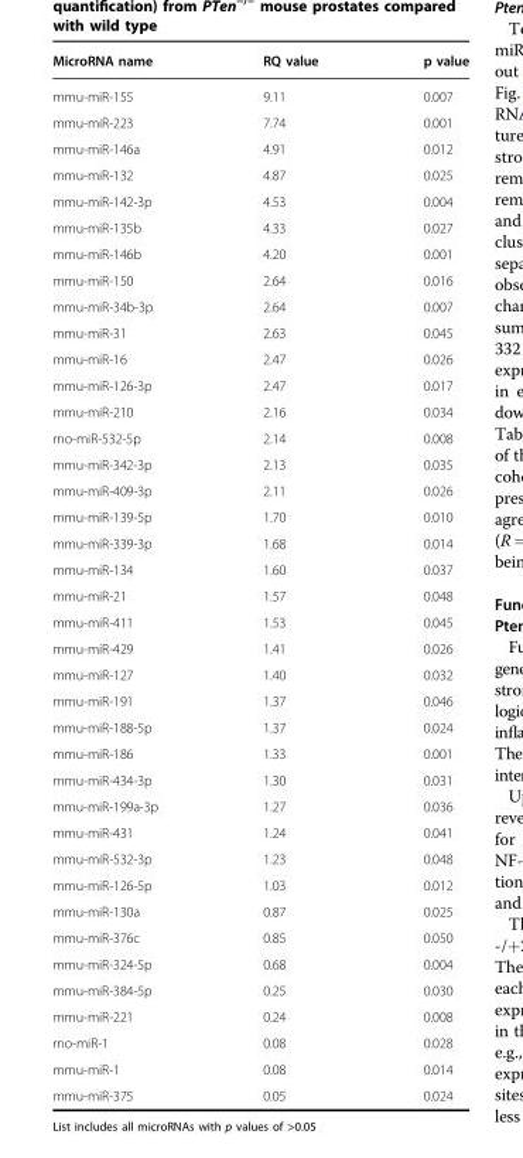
<table><thead><tr><td>MicroRNA name</td><td>RQ value</td><td>p value</td></tr></thead><tbody><tr><td>mmu-miR-155</td><td>9.11</td><td>0.007</td></tr><tr><td>mmu-miR-223</td><td>7.74</td><td>0.001</td></tr><tr><td>mmu-miR-146a</td><td>4.91</td><td>0.012</td></tr><tr><td>mmu-miR-132</td><td>4.87</td><td>0.025</td></tr><tr><td>mmu-miR-142-3p</td><td>4.53</td><td>0.004</td></tr><tr><td>mmu-miR-135b</td><td>4.33</td><td>0.027</td></tr><tr><td>mmu-miR-146b</td><td>4.20</td><td>0.001</td></tr><tr><td>mmu-miR-150</td><td>2.64</td><td>0.016</td></tr><tr><td>mmu-miR-34b-3p</td><td>2.64</td><td>0.007</td></tr><tr><td>mmu-miR-31</td><td>2.63</td><td>0.045</td></tr><tr><td>mmu-miR-16</td><td>2.47</td><td>0.026</td></tr><tr><td>mmu-miR-126-3p</td><td>2.47</td><td>0.017</td></tr><tr><td>mmu-miR-210</td><td>2.16</td><td>0.034</td></tr><tr><td>rno-miR-532-5p</td><td>2.14</td><td>0.008</td></tr><tr><td>mmu-miR-342-3p</td><td>2.13</td><td>0.035</td></tr><tr><td>mmu-miR-409-3p</td><td>2.11</td><td>0.026</td></tr><tr><td>mmu-miR-139-5p</td><td>1.70</td><td>0.010</td></tr><tr><td>mmu-miR-339-3p</td><td>1.68</td><td>0.014</td></tr><tr><td>mmu-miR-134</td><td>1.60</td><td>0.037</td></tr><tr><td>mmu-miR-21</td><td>1.57</td><td>0.048</td></tr><tr><td>mmu-miR-411</td><td>1.53</td><td>0.045</td></tr><tr><td>mmu-miR-429</td><td>1.41</td><td>0.026</td></tr><tr><td>mmu-miR-127</td><td>1.40</td><td>0.032</td></tr><tr><td>mmu-miR-191</td><td>1.37</td><td>0.046</td></tr><tr><td>mmu-miR-188-5p</td><td>1.37</td><td>0.024</td></tr><tr><td>mmu-miR-186</td><td>1.33</td><td>0.001</td></tr><tr><td>mmu-miR-434-3p</td><td>1.30</td><td>0.031</td></tr><tr><td>mmu-miR-199a-3p</td><td>1.27</td><td>0.036</td></tr><tr><td>mmu-miR-431</td><td>1.24</td><td>0.041</td></tr><tr><td>mmu-miR-532-3p</td><td>1.23</td><td>0.048</td></tr><tr><td>mmu-miR-126-5p</td><td>1.03</td><td>0.012</td></tr><tr><td>mmu-miR-130a</td><td>0.87</td><td>0.025</td></tr><tr><td>mmu-miR-376c</td><td>0.85</td><td>0.050</td></tr><tr><td>mmu-miR-324-5p</td><td>0.68</td><td>0.004</td></tr><tr><td>mmu-miR-384-5p</td><td>0.25</td><td>0.030</td></tr><tr><td>mmu-miR-221</td><td>0.24</td><td>0.008</td></tr><tr><td>rno-miR-1</td><td>0.08</td><td>0.028</td></tr><tr><td>mmu-miR-1</td><td>0.08</td><td>0.014</td></tr><tr><td>mmu-miR-375</td><td>0.05</td><td>0.024</td></tr></tbody></table>